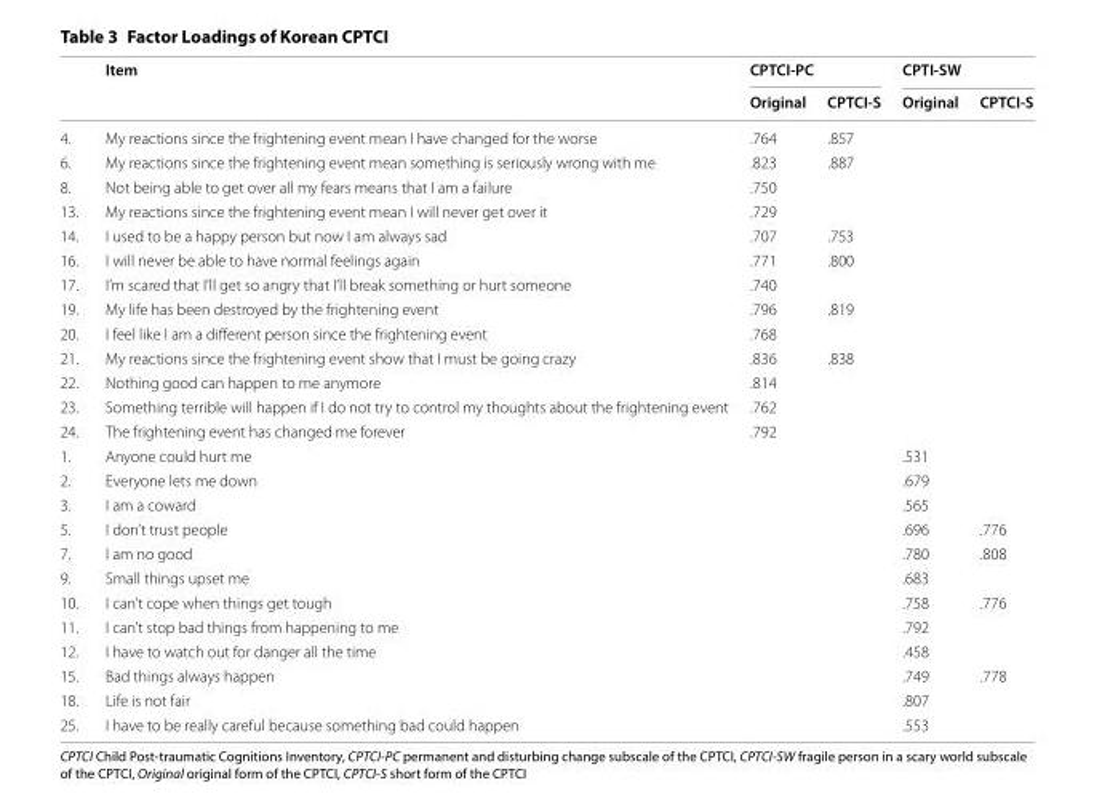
<table><thead><tr><td rowspan="2"></td><td rowspan="2">Item</td><td colspan="2">CPTCI-PC</td><td colspan="2">CPTI-SW</td></tr><tr><td>Original</td><td>CPTCI-S</td><td>Original</td><td>CPTCI-S</td></tr></thead><tbody><tr><td>4.</td><td>My reactions since the frightening event mean I have changed for the worse</td><td>.764</td><td>.857</td><td></td><td></td></tr><tr><td>6.</td><td>My reactions since the frightening event mean something is seriously wrong with me</td><td>.823</td><td>.887</td><td></td><td></td></tr><tr><td>8.</td><td>Not being able to get over all my fears means that I am a failure</td><td>.750</td><td></td><td></td><td></td></tr><tr><td>13.</td><td>My reactions since the frightening event mean I will never get over it</td><td>.729</td><td></td><td></td><td></td></tr><tr><td>14.</td><td>I used to be a happy person but now I am always sad</td><td>.707</td><td>.753</td><td></td><td></td></tr><tr><td>16.</td><td>I will never be able to have normal feelings again</td><td>.771</td><td>.800</td><td></td><td></td></tr><tr><td>17.</td><td>I’m scared that I’ll get so angry that I’ll break something or hurt someone</td><td>.740</td><td></td><td></td><td></td></tr><tr><td>19.</td><td>My life has been destroyed by the frightening event</td><td>.796</td><td>.819</td><td></td><td></td></tr><tr><td>20.</td><td>I feel like I am a different person since the frightening event</td><td>.768</td><td></td><td></td><td></td></tr><tr><td>21.</td><td>My reactions since the frightening event show that I must be going crazy</td><td>.836</td><td>.838</td><td></td><td></td></tr><tr><td>22.</td><td>Nothing good can happen to me anymore</td><td>.814</td><td></td><td></td><td></td></tr><tr><td>23.</td><td>Something terrible will happen if I do not try to control my thoughts about the frightening event</td><td>.762</td><td></td><td></td><td></td></tr><tr><td>24.</td><td>The frightening event has changed me forever</td><td>.792</td><td></td><td></td><td></td></tr><tr><td>1.</td><td>Anyone could hurt me</td><td></td><td></td><td>.531</td><td></td></tr><tr><td>2.</td><td>Everyone lets me down</td><td></td><td></td><td>.679</td><td></td></tr><tr><td>3.</td><td>I am a coward</td><td></td><td></td><td>.565</td><td></td></tr><tr><td>5.</td><td>I don’t trust people</td><td></td><td></td><td>.696</td><td>.776</td></tr><tr><td>7.</td><td>I am no good</td><td></td><td></td><td>.780</td><td>.808</td></tr><tr><td>9.</td><td>Small things upset me</td><td></td><td></td><td>.683</td><td></td></tr><tr><td>10.</td><td>I can’t cope when things get tough</td><td></td><td></td><td>.758</td><td>.776</td></tr><tr><td>11.</td><td>I can’t stop bad things from happening to me</td><td></td><td></td><td>.792</td><td></td></tr><tr><td>12.</td><td>I have to watch out for danger all the time</td><td></td><td></td><td>.458</td><td></td></tr><tr><td>15.</td><td>Bad things always happen</td><td></td><td></td><td>.749</td><td>.778</td></tr><tr><td>18.</td><td>Life is not fair</td><td></td><td></td><td>.807</td><td></td></tr><tr><td>25.</td><td>I have to be really careful because something bad could happen</td><td></td><td></td><td>.553</td><td></td></tr></tbody></table>